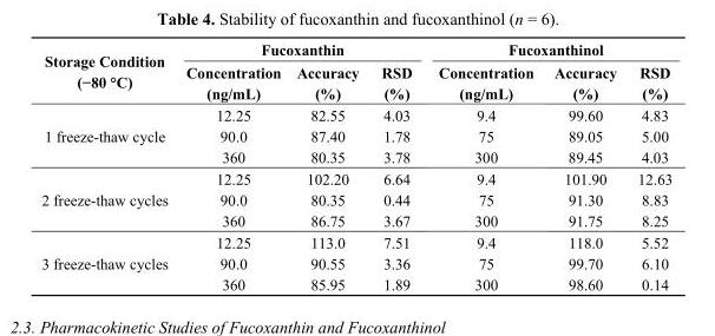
<table><thead><tr><td rowspan="2">Storage Condition (−80 °C)</td><td colspan="3">Fucoxanthin</td><td colspan="3">Fucoxanthinol</td></tr><tr><td>Concentration (ng/mL)</td><td>Accuracy (%)</td><td>RSD (%)</td><td>Concentration (ng/mL)</td><td>Accuracy (%)</td><td>RSD (%)</td></tr></thead><tbody><tr><td rowspan="3">1 freeze-thaw cycle</td><td>12.25</td><td>82.55</td><td>4.03</td><td>9.4</td><td>99.60</td><td>4.83</td></tr><tr><td>90.0</td><td>87.40</td><td>1.78</td><td>75</td><td>89.05</td><td>5.00</td></tr><tr><td>360</td><td>80.35</td><td>3.78</td><td>300</td><td>89.45</td><td>4.03</td></tr><tr><td rowspan="3">2 freeze-thaw cycles</td><td>12.25</td><td>102.20</td><td>6.64</td><td>9.4</td><td>101.90</td><td>12.63</td></tr><tr><td>90.0</td><td>80.35</td><td>0.44</td><td>75</td><td>91.30</td><td>8.83</td></tr><tr><td>360</td><td>86.75</td><td>3.67</td><td>300</td><td>91.75</td><td>8.25</td></tr><tr><td rowspan="3">3 freeze-thaw cycles</td><td>12.25</td><td>113.0</td><td>7.51</td><td>9.4</td><td>118.0</td><td>5.52</td></tr><tr><td>90.0</td><td>90.55</td><td>3.36</td><td>75</td><td>99.70</td><td>6.10</td></tr><tr><td>360</td><td>85.95</td><td>1.89</td><td>300</td><td>98.60</td><td>0.14</td></tr></tbody></table>